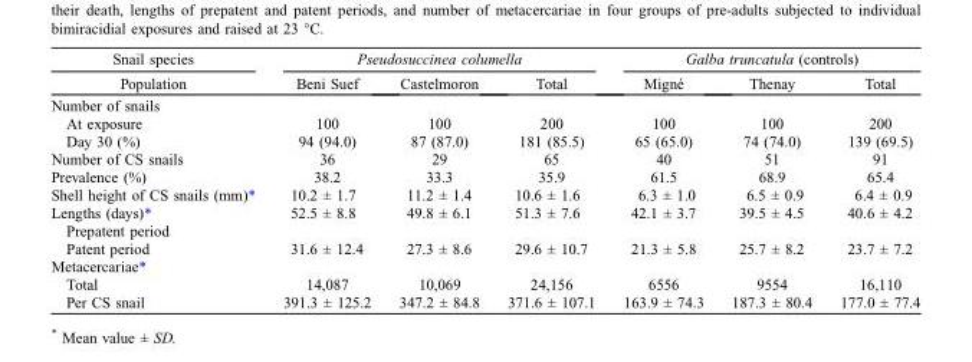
<table><thead><tr><td rowspan="2">Snail species Population</td><td colspan="3">Pseudosuccinea columella</td><td colspan="3">Galba truncatula (controls)</td></tr><tr><td>Beni Suef</td><td>Castelmoron</td><td>Total</td><td>Migné</td><td>Thenay</td><td>Total</td></tr></thead><tbody><tr><td colspan="7">Number of snails</td></tr><tr><td>At exposure</td><td>100</td><td>100</td><td>200</td><td>100</td><td>100</td><td>200</td></tr><tr><td>Day 30 (%)</td><td>94 (94.0)</td><td>87 (87.0)</td><td>181 (85.5)</td><td>65 (65.0)</td><td>74 (74.0)</td><td>139 (69.5)</td></tr><tr><td>Number of CS snails</td><td>36</td><td>29</td><td>65</td><td>40</td><td>51</td><td>91</td></tr><tr><td>Prevalence (%)</td><td>38.2</td><td>33.3</td><td>35.9</td><td>61.5</td><td>68.9</td><td>65.4</td></tr><tr><td>Shell height of CS snails (mm)*</td><td>10.2 ± 1.7</td><td>11.2 ± 1.4</td><td>10.6 ± 1.6</td><td>6.3 ± 1.0</td><td>6.5 ± 0.9</td><td>6.4 ± 0.9</td></tr><tr><td>Lengths (days)*</td><td>52.5 ± 8.8</td><td>49.8 ± 6.1</td><td>51.3 ± 7.6</td><td>42.1 ± 3.7</td><td>39.5 ± 4.5</td><td>40.6 ± 4.2</td></tr><tr><td colspan="7">Prepatent period</td></tr><tr><td>Patent period</td><td>31.6 ± 12.4</td><td>27.3 ± 8.6</td><td>29.6 ± 10.7</td><td>21.3 ± 5.8</td><td>25.7 ± 8.2</td><td>23.7 ± 7.2</td></tr><tr><td colspan="7">Metacercariae*</td></tr><tr><td>Total</td><td>14,087</td><td>10,069</td><td>24,156</td><td>6556</td><td>9554</td><td>16,110</td></tr><tr><td>Per CS snail</td><td>391.3 ± 125.2</td><td>347.2 ± 84.8</td><td>371.6 ± 107.1</td><td>163.9 ± 74.3</td><td>187.3 ± 80.4</td><td>177.0 ± 77.4</td></tr></tbody></table>